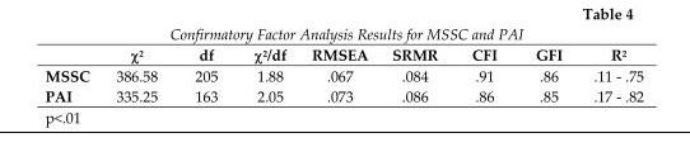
<table><thead><tr><td></td><td>χ<sup>2</sup></td><td>df</td><td>χ<sup>2</sup>/df</td><td>RMSEA</td><td>SRMR</td><td>CFI</td><td>GFI</td><td>R<sup>2</sup></td></tr></thead><tbody><tr><td>MSSC</td><td>386.58</td><td>205</td><td>1.88</td><td>.067</td><td>.084</td><td>.91</td><td>.86</td><td>.11 - .75</td></tr><tr><td>PAI</td><td>335.25</td><td>163</td><td>2.05</td><td>.073</td><td>.086</td><td>.86</td><td>.85</td><td>.17 - .82</td></tr></tbody></table>